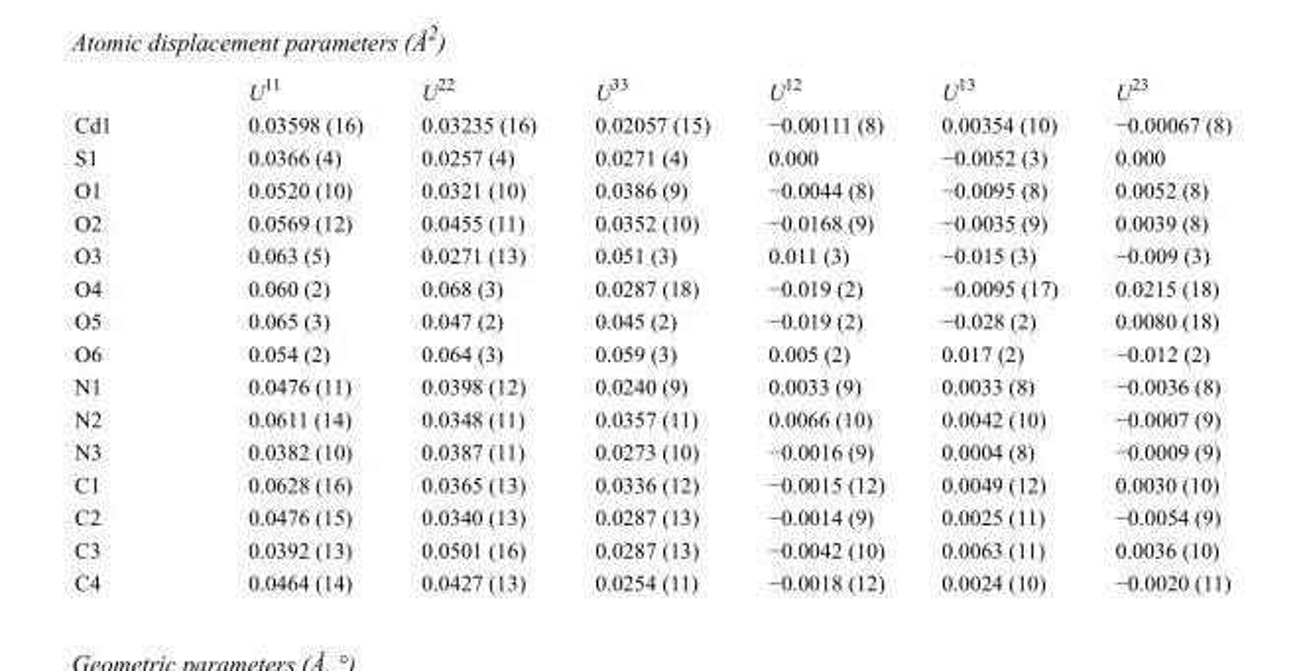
<table><thead><tr><td></td><td>U<sup>11</sup></td><td>U<sup>22</sup></td><td>U<sup>33</sup></td><td>U<sup>12</sup></td><td>U<sup>13</sup></td><td>U<sup>23</sup></td></tr></thead><tbody><tr><td>Cd1</td><td>0.03598 (16)</td><td>0.03235 (16)</td><td>0.02057 (15)</td><td>−0.00111 (8)</td><td>0.00354 (10)</td><td>−0.00067 (8)</td></tr><tr><td>S1</td><td>0.0366 (4)</td><td>0.0257 (4)</td><td>0.0271 (4)</td><td>0.000</td><td>−0.0052 (3)</td><td>0.000</td></tr><tr><td>O1</td><td>0.0520 (10)</td><td>0.0321 (10)</td><td>0.0386 (9)</td><td>−0.0044 (8)</td><td>−0.0095 (8)</td><td>0.0052 (8)</td></tr><tr><td>O2</td><td>0.0569 (12)</td><td>0.0455 (11)</td><td>0.0352 (10)</td><td>−0.0168 (9)</td><td>−0.0035 (9)</td><td>0.0039 (8)</td></tr><tr><td>O3</td><td>0.063 (5)</td><td>0.0271 (13)</td><td>0.051 (3)</td><td>0.011 (3)</td><td>−0.015 (3)</td><td>−0.009 (3)</td></tr><tr><td>O4</td><td>0.060 (2)</td><td>0.068 (3)</td><td>0.0287 (18)</td><td>−0.019 (2)</td><td>−0.0095 (17)</td><td>0.0215 (18)</td></tr><tr><td>O5</td><td>0.065 (3)</td><td>0.047 (2)</td><td>0.045 (2)</td><td>−0.019 (2)</td><td>−0.028 (2)</td><td>0.0080 (18)</td></tr><tr><td>O6</td><td>0.054 (2)</td><td>0.064 (3)</td><td>0.059 (3)</td><td>0.005 (2)</td><td>0.017 (2)</td><td>−0.012 (2)</td></tr><tr><td>N1</td><td>0.0476 (11)</td><td>0.0398 (12)</td><td>0.0240 (9)</td><td>0.0033 (9)</td><td>0.0033 (8)</td><td>−0.0036 (8)</td></tr><tr><td>N2</td><td>0.0611 (14)</td><td>0.0348 (11)</td><td>0.0357 (11)</td><td>0.0066 (10)</td><td>0.0042 (10)</td><td>−0.0007 (9)</td></tr><tr><td>N3</td><td>0.0382 (10)</td><td>0.0387 (11)</td><td>0.0273 (10)</td><td>−0.0016 (9)</td><td>0.0004 (8)</td><td>−0.0009 (9)</td></tr><tr><td>C1</td><td>0.0628 (16)</td><td>0.0365 (13)</td><td>0.0336 (12)</td><td>−0.0015 (12)</td><td>0.0049 (12)</td><td>0.0030 (10)</td></tr><tr><td>C2</td><td>0.0476 (15)</td><td>0.0340 (13)</td><td>0.0287 (13)</td><td>−0.0014 (9)</td><td>0.0025 (11)</td><td>−0.0054 (9)</td></tr><tr><td>C3</td><td>0.0392 (13)</td><td>0.0501 (16)</td><td>0.0287 (13)</td><td>−0.0042 (10)</td><td>0.0063 (11)</td><td>0.0036 (10)</td></tr><tr><td>C4</td><td>0.0464 (14)</td><td>0.0427 (13)</td><td>0.0254 (11)</td><td>−0.0018 (12)</td><td>0.0024 (10)</td><td>−0.0020 (11)</td></tr></tbody></table>